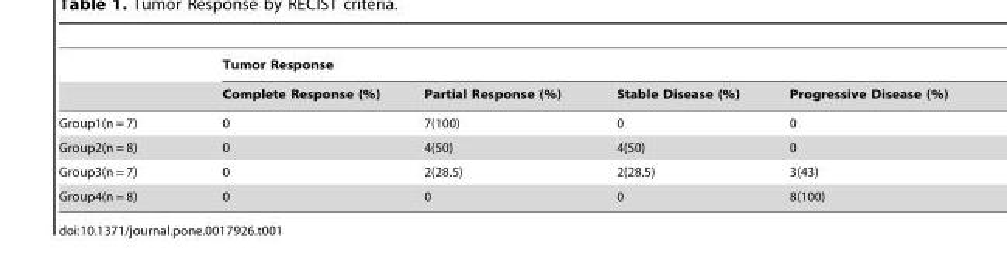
<table><thead><tr><td rowspan="2"></td><td colspan="4">Tumor Response</td></tr><tr><td>Complete Response (%)</td><td>Partial Response (%)</td><td>Stable Disease (%)</td><td>Progressive Disease (%)</td></tr></thead><tbody><tr><td>Group1(n = 7)</td><td>0</td><td>7(100)</td><td>0</td><td>0</td></tr><tr><td>Group2(n = 8)</td><td>0</td><td>4(50)</td><td>4(50)</td><td>0</td></tr><tr><td>Group3(n = 7)</td><td>0</td><td>2(28.5)</td><td>2(28.5)</td><td>3(43)</td></tr><tr><td>Group4(n = 8)</td><td>0</td><td>0</td><td>0</td><td>8(100)</td></tr></tbody></table>